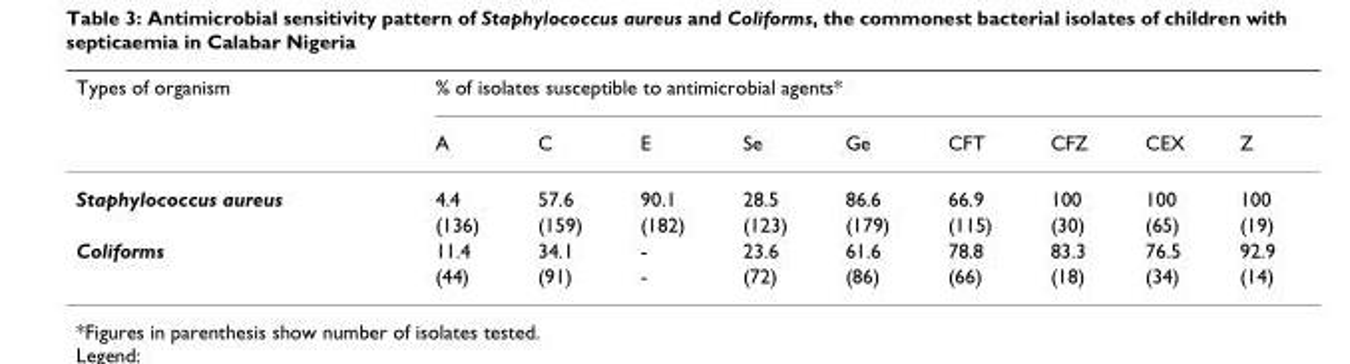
<table><thead><tr><td rowspan="2">Types of organism</td><td colspan="9">% of isolates susceptible to antimicrobial agents*</td></tr><tr><td>A</td><td>C</td><td>E</td><td>Se</td><td>Ge</td><td>CFT</td><td>CFZ</td><td>CEX</td><td>Z</td></tr></thead><tbody><tr><td rowspan="2">Staphylococcus aureus</td><td>4.4</td><td>57.6</td><td>90.1</td><td>28.5</td><td>86.6</td><td>66.9</td><td>100</td><td>100</td><td>100</td></tr><tr><td>(136)</td><td>(159)</td><td>(182)</td><td>(123)</td><td>(179)</td><td>(115)</td><td>(30)</td><td>(65)</td><td>(19)</td></tr><tr><td rowspan="2">Coliforms</td><td>11.4</td><td>34.1</td><td>-</td><td>23.6</td><td>61.6</td><td>78.8</td><td>83.3</td><td>76.5</td><td>92.9</td></tr><tr><td>(44)</td><td>(91)</td><td>-</td><td>(72)</td><td>(86)</td><td>(66)</td><td>(18)</td><td>(34)</td><td>(14)</td></tr></tbody></table>